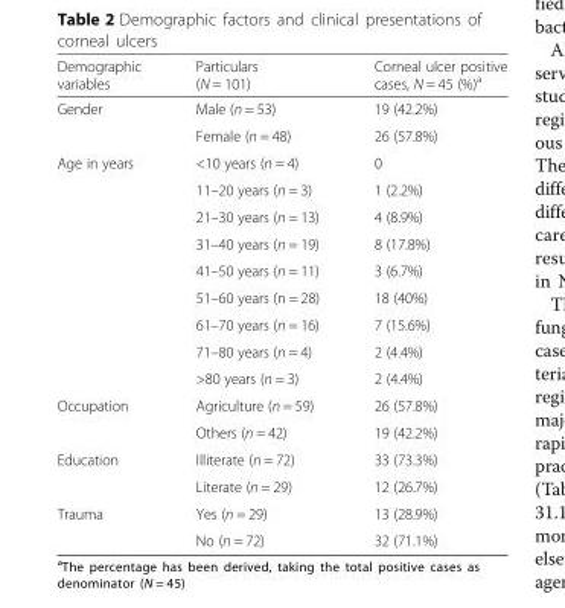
<table><thead><tr><td>Demographic variables</td><td>Particulars (N = 101)</td><td>Corneal ulcer positive cases, N = 45 (%)<sup>a</sup></td></tr></thead><tbody><tr><td rowspan="2">Gender</td><td>Male (n = 53)</td><td>19 (42.2%)</td></tr><tr><td>Female (n = 48)</td><td>26 (57.8%)</td></tr><tr><td rowspan="9">Age in years</td><td>&lt;10 years (n = 4)</td><td>0</td></tr><tr><td>11–20 years (n = 3)</td><td>1 (2.2%)</td></tr><tr><td>21–30 years (n = 13)</td><td>4 (8.9%)</td></tr><tr><td>31–40 years (n = 19)</td><td>8 (17.8%)</td></tr><tr><td>41–50 years (n = 11)</td><td>3 (6.7%)</td></tr><tr><td>51–60 years (n = 28)</td><td>18 (40%)</td></tr><tr><td>61–70 years (n = 16)</td><td>7 (15.6%)</td></tr><tr><td>71–80 years (n = 4)</td><td>2 (4.4%)</td></tr><tr><td>&gt;80 years (n = 3)</td><td>2 (4.4%)</td></tr><tr><td rowspan="2">Occupation</td><td>Agriculture (n = 59)</td><td>26 (57.8%)</td></tr><tr><td>Others (n = 42)</td><td>19 (42.2%)</td></tr><tr><td rowspan="2">Education</td><td>Illiterate (n = 72)</td><td>33 (73.3%)</td></tr><tr><td>Literate (n = 29)</td><td>12 (26.7%)</td></tr><tr><td rowspan="2">Trauma</td><td>Yes (n = 29)</td><td>13 (28.9%)</td></tr><tr><td>No (n = 72)</td><td>32 (71.1%)</td></tr></tbody></table>